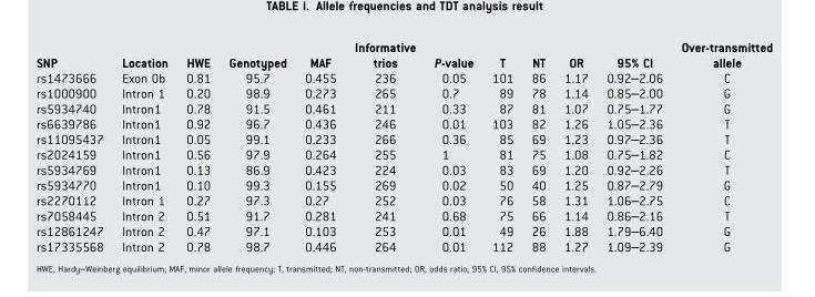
<table><thead><tr><td>SNP</td><td>Location</td><td>HWE</td><td>Genotyped</td><td>MAF</td><td>Informative trios</td><td>P-value</td><td>T</td><td>NT</td><td>OR</td><td>95% CI</td><td>Over-transmitted allele</td></tr></thead><tbody><tr><td>rs1473666</td><td>Exon 0b</td><td>0.81</td><td>95.7</td><td>0.455</td><td>236</td><td>0.05</td><td>101</td><td>86</td><td>1.17</td><td>0.92–2.06</td><td>C</td></tr><tr><td>rs1000900</td><td>Intron 1</td><td>0.20</td><td>98.9</td><td>0.273</td><td>265</td><td>0.7</td><td>89</td><td>78</td><td>1.14</td><td>0.85–2.00</td><td>G</td></tr><tr><td>rs5934740</td><td>Intron1</td><td>0.78</td><td>91.5</td><td>0.461</td><td>211</td><td>0.33</td><td>87</td><td>81</td><td>1.07</td><td>0.75–1.77</td><td>G</td></tr><tr><td>rs6639786</td><td>Intron1</td><td>0.92</td><td>96.7</td><td>0.436</td><td>246</td><td>0.01</td><td>103</td><td>82</td><td>1.26</td><td>1.05–2.36</td><td>T</td></tr><tr><td>rs11095437</td><td>Intron1</td><td>0.05</td><td>99.1</td><td>0.233</td><td>266</td><td>0.36</td><td>85</td><td>69</td><td>1.23</td><td>0.97–2.36</td><td>T</td></tr><tr><td>rs2024159</td><td>Intron1</td><td>0.56</td><td>97.9</td><td>0.264</td><td>255</td><td>1</td><td>81</td><td>75</td><td>1.08</td><td>0.75–1.82</td><td>C</td></tr><tr><td>rs5934769</td><td>Intron1</td><td>0.13</td><td>86.9</td><td>0.423</td><td>224</td><td>0.03</td><td>83</td><td>69</td><td>1.20</td><td>0.92–2.26</td><td>T</td></tr><tr><td>rs5934770</td><td>Intron1</td><td>0.10</td><td>99.3</td><td>0.155</td><td>269</td><td>0.02</td><td>50</td><td>40</td><td>1.25</td><td>0.87–2.79</td><td>G</td></tr><tr><td>rs2270112</td><td>Intron 1</td><td>0.27</td><td>97.3</td><td>0.27</td><td>252</td><td>0.03</td><td>76</td><td>58</td><td>1.31</td><td>1.06–2.75</td><td>C</td></tr><tr><td>rs7058445</td><td>Intron 2</td><td>0.51</td><td>91.7</td><td>0.281</td><td>241</td><td>0.68</td><td>75</td><td>66</td><td>1.14</td><td>0.86–2.16</td><td>T</td></tr><tr><td>rs12861247</td><td>Intron 2</td><td>0.47</td><td>97.1</td><td>0.103</td><td>253</td><td>0.01</td><td>49</td><td>26</td><td>1.88</td><td>1.79–6.40</td><td>G</td></tr><tr><td>rs17335568</td><td>Intron 2</td><td>0.78</td><td>98.7</td><td>0.446</td><td>264</td><td>0.01</td><td>112</td><td>88</td><td>1.27</td><td>1.09–2.39</td><td>G</td></tr></tbody></table>